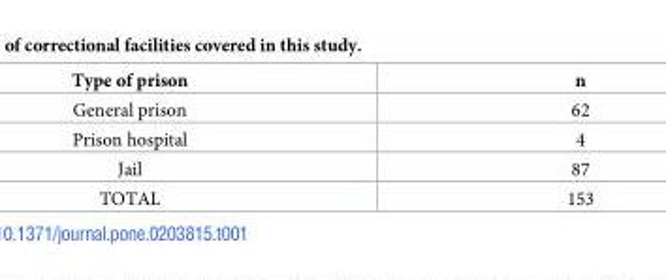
<table><thead><tr><td>Type of prison</td><td>n</td></tr></thead><tbody><tr><td>General prison</td><td>62</td></tr><tr><td>Prison hospital</td><td>4</td></tr><tr><td>Jail</td><td>87</td></tr><tr><td>TOTAL</td><td>153</td></tr></tbody></table>